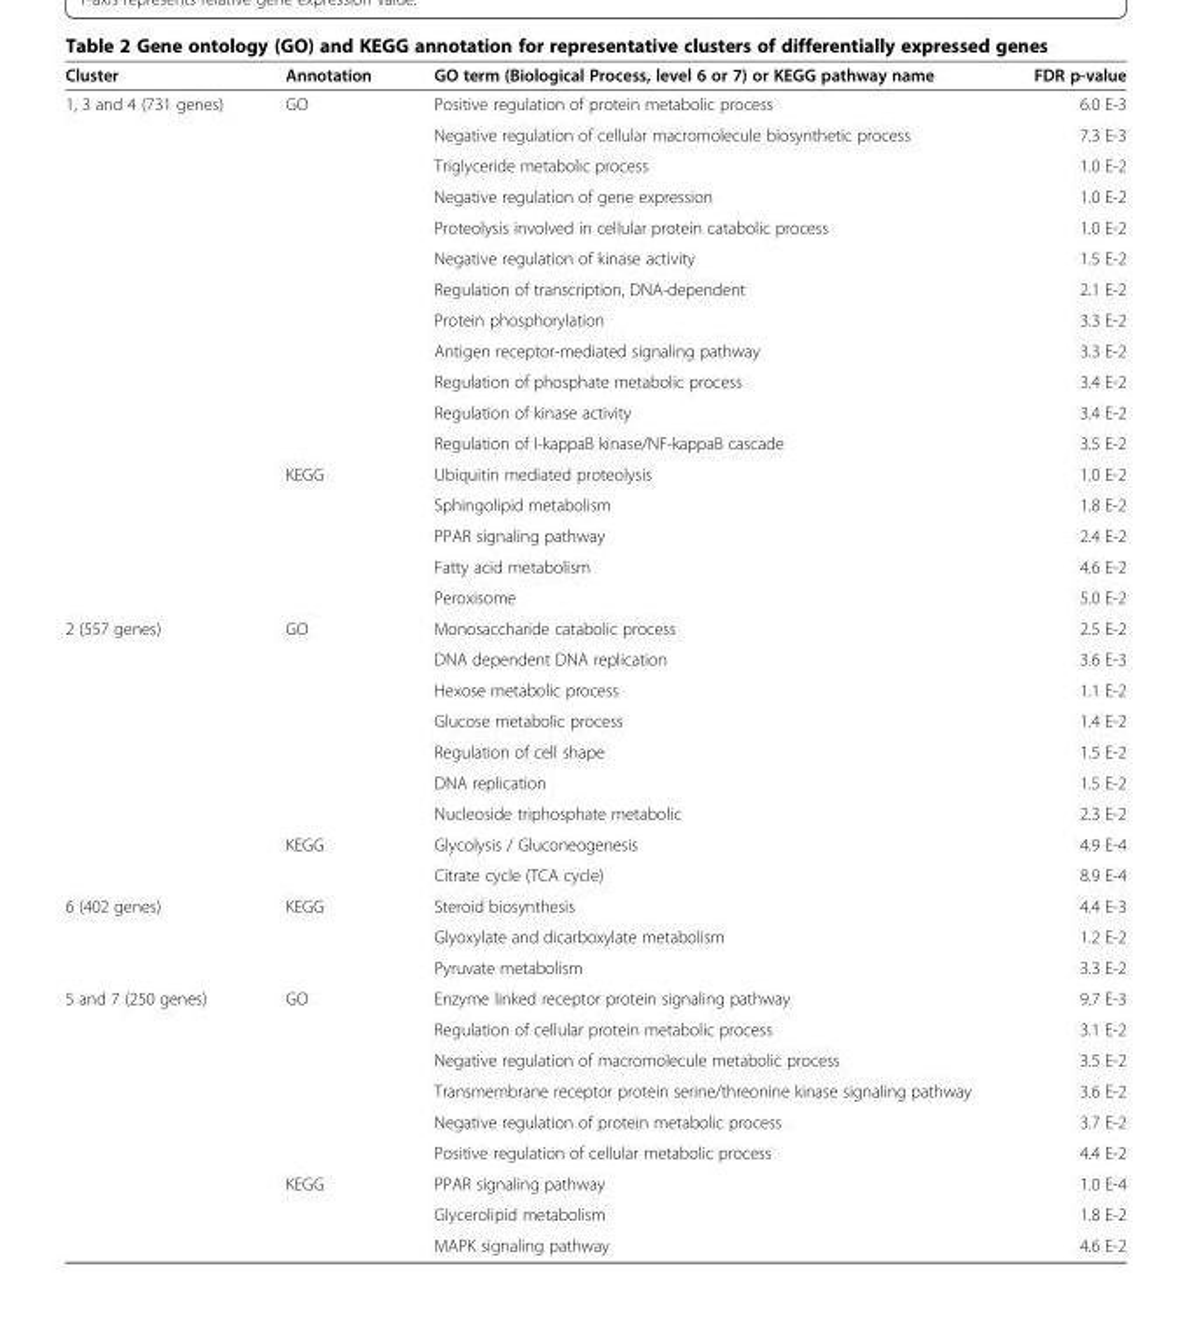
<table><thead><tr><td>Cluster</td><td>Annotation</td><td>GO term (Biological Process, level 6 or 7) or KEGG pathway name</td><td>FDR p-value</td></tr></thead><tbody><tr><td rowspan="17">1, 3 and 4 (731 genes)</td><td rowspan="2">GO</td><td>Positive regulation of protein metabolic process</td><td>6.0 E-3</td></tr><tr><td>Negative regulation of cellular macromolecule biosynthetic process</td><td>7.3 E-3</td></tr><tr><td></td><td>Triglyceride metabolic process</td><td>1.0 E-2</td></tr><tr><td></td><td>Negative regulation of gene expression</td><td>1.0 E-2</td></tr><tr><td></td><td>Proteolysis involved in cellular protein catabolic process</td><td>1.0 E-2</td></tr><tr><td></td><td>Negative regulation of kinase activity</td><td>1.5 E-2</td></tr><tr><td></td><td>Regulation of transcription, DNA-dependent</td><td>2.1 E-2</td></tr><tr><td></td><td>Protein phosphorylation</td><td>3.3 E-2</td></tr><tr><td></td><td>Antigen receptor-mediated signaling pathway</td><td>3.3 E-2</td></tr><tr><td></td><td>Regulation of phosphate metabolic process</td><td>3.4 E-2</td></tr><tr><td></td><td>Regulation of kinase activity</td><td>3.4 E-2</td></tr><tr><td></td><td>Regulation of I-kappaB kinase/NF-kappaB cascade</td><td>3.5 E-2</td></tr><tr><td>KEGG</td><td>Ubiquitin mediated proteolysis</td><td>1.0 E-2</td></tr><tr><td></td><td>Sphingolipid metabolism</td><td>1.8 E-2</td></tr><tr><td></td><td>PPAR signaling pathway</td><td>2.4 E-2</td></tr><tr><td></td><td>Fatty acid metabolism</td><td>4.6 E-2</td></tr><tr><td></td><td>Peroxisome</td><td>5.0 E-2</td></tr><tr><td rowspan="9">2 (557 genes)</td><td rowspan="2">GO</td><td>Monosaccharide catabolic process</td><td>2.5 E-2</td></tr><tr><td>DNA dependent DNA replication</td><td>3.6 E-3</td></tr><tr><td></td><td>Hexose metabolic process</td><td>1.1 E-2</td></tr><tr><td></td><td>Glucose metabolic process</td><td>1.4 E-2</td></tr><tr><td></td><td>Regulation of cell shape</td><td>1.5 E-2</td></tr><tr><td></td><td>DNA replication</td><td>1.5 E-2</td></tr><tr><td></td><td>Nucleoside triphosphate metabolic</td><td>2.3 E-2</td></tr><tr><td>KEGG</td><td>Glycolysis / Gluconeogenesis</td><td>4.9 E-4</td></tr><tr><td></td><td>Citrate cycle (TCA cycle)</td><td>8.9 E-4</td></tr><tr><td rowspan="3">6 (402 genes)</td><td>KEGG</td><td>Steroid biosynthesis</td><td>4.4 E-3</td></tr><tr><td></td><td>Glyoxylate and dicarboxylate metabolism</td><td>1.2 E-2</td></tr><tr><td></td><td>Pyruvate metabolism</td><td>3.3 E-2</td></tr><tr><td rowspan="9">5 and 7 (250 genes)</td><td rowspan="2">GO</td><td>Enzyme linked receptor protein signaling pathway</td><td>9.7 E-3</td></tr><tr><td>Regulation of cellular protein metabolic process</td><td>3.1 E-2</td></tr><tr><td></td><td>Negative regulation of macromolecule metabolic process</td><td>3.5 E-2</td></tr><tr><td></td><td>Transmembrane receptor protein serine/threonine kinase signaling pathway</td><td>3.6 E-2</td></tr><tr><td></td><td>Negative regulation of protein metabolic process</td><td>3.7 E-2</td></tr><tr><td></td><td>Positive regulation of cellular metabolic process</td><td>4.4 E-2</td></tr><tr><td>KEGG</td><td>PPAR signaling pathway</td><td>1.0 E-4</td></tr><tr><td></td><td>Glycerolipid metabolism</td><td>1.8 E-2</td></tr><tr><td></td><td>MAPK signaling pathway</td><td>4.6 E-2</td></tr></tbody></table>